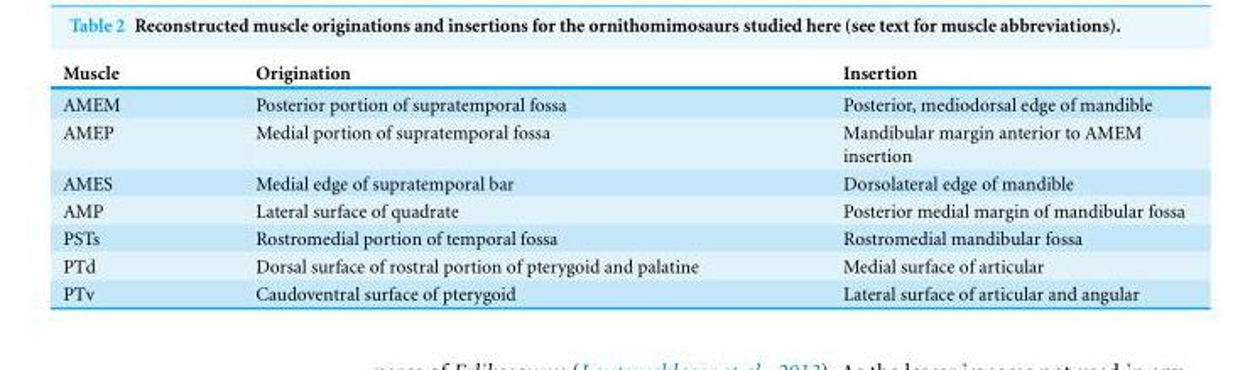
<table><thead><tr><td>Muscle</td><td>Origination</td><td>Insertion</td></tr></thead><tbody><tr><td>AMEM</td><td>Posterior portion of supratemporal fossa</td><td>Posterior, mediodorsal edge of mandible</td></tr><tr><td>AMEP</td><td>Medial portion of supratemporal fossa</td><td>Mandibular margin anterior to AMEM insertion</td></tr><tr><td>AMES</td><td>Medial edge of supratemporal bar</td><td>Dorsolateral edge of mandible</td></tr><tr><td>AMP</td><td>Lateral surface of quadrate</td><td>Posterior medial margin of mandibular fossa</td></tr><tr><td>PSTs</td><td>Rostromedial portion of temporal fossa</td><td>Rostromedial mandibular fossa</td></tr><tr><td>PTd</td><td>Dorsal surface of rostral portion of pterygoid and palatine</td><td>Medial surface of articular</td></tr><tr><td>PTv</td><td>Caudoventral surface of pterygoid</td><td>Lateral surface of articular and angular</td></tr></tbody></table>